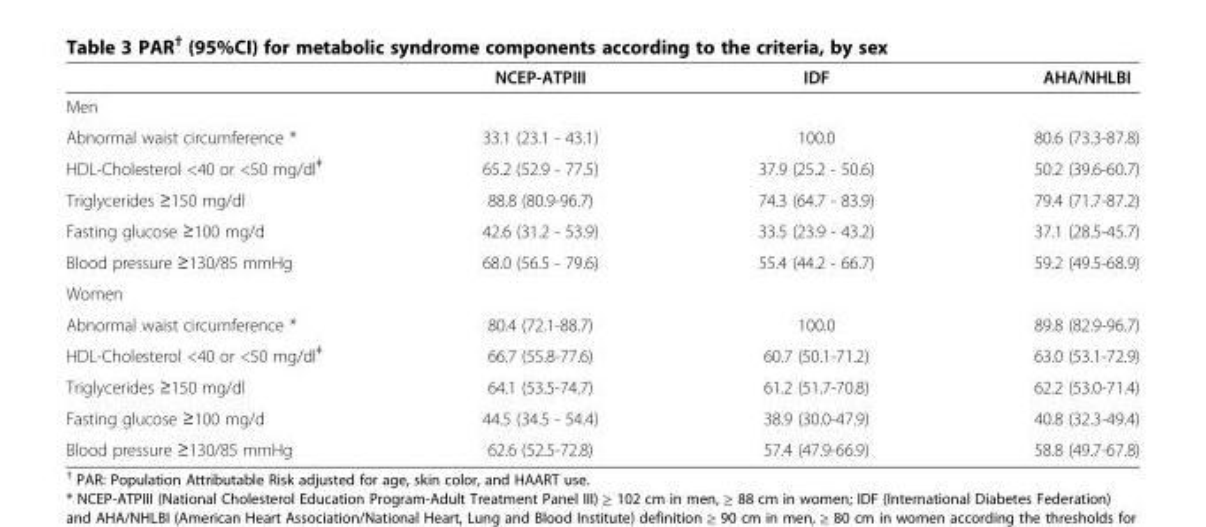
<table><thead><tr><td></td><td>NCEP-ATPIII</td><td>IDF</td><td>AHA/NHLBI</td></tr></thead><tbody><tr><td colspan="4">Men</td></tr><tr><td>Abnormal waist circumference *</td><td>33.1 (23.1 - 43.1)</td><td>100.0</td><td>80.6 (73.3-87.8)</td></tr><tr><td>HDL-Cholesterol &lt;40 or &lt;50 mg/dl<sup>ǂ</sup></td><td>65.2 (52.9 - 77.5)</td><td>37.9 (25.2 - 50.6)</td><td>50.2 (39.6-60.7)</td></tr><tr><td>Triglycerides ≥150 mg/dl</td><td>88.8 (80.9-96.7)</td><td>74.3 (64.7 - 83.9)</td><td>79.4 (71.7-87.2)</td></tr><tr><td>Fasting glucose ≥100 mg/d</td><td>42.6 (31.2 - 53.9)</td><td>33.5 (23.9 - 43.2)</td><td>37.1 (28.5-45.7)</td></tr><tr><td>Blood pressure ≥130/85 mmHg</td><td>68.0 (56.5 - 79.6)</td><td>55.4 (44.2 - 66.7)</td><td>59.2 (49.5-68.9)</td></tr><tr><td colspan="4">Women</td></tr><tr><td>Abnormal waist circumference *</td><td>80.4 (72.1-88.7)</td><td>100.0</td><td>89.8 (82.9-96.7)</td></tr><tr><td>HDL-Cholesterol &lt;40 or &lt;50 mg/dl<sup>ǂ</sup></td><td>66.7 (55.8-77.6)</td><td>60.7 (50.1-71.2)</td><td>63.0 (53.1-72.9)</td></tr><tr><td>Triglycerides ≥150 mg/dl</td><td>64.1 (53.5-74.7)</td><td>61.2 (51.7-70.8)</td><td>62.2 (53.0-71.4)</td></tr><tr><td>Fasting glucose ≥100 mg/d</td><td>44.5 (34.5 - 54.4)</td><td>38.9 (30.0-47.9)</td><td>40.8 (32.3-49.4)</td></tr><tr><td>Blood pressure ≥130/85 mmHg</td><td>62.6 (52.5-72.8)</td><td>57.4 (47.9-66.9)</td><td>58.8 (49.7-67.8)</td></tr></tbody></table>